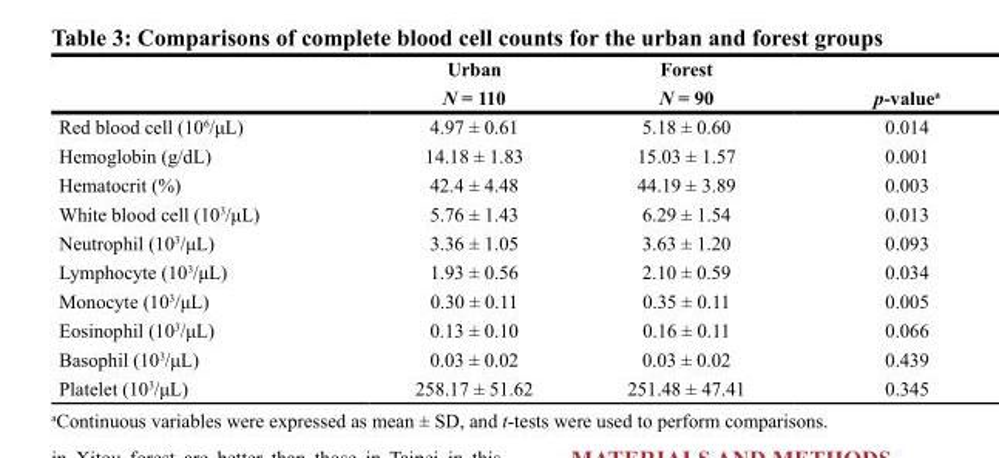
<table><thead><tr><td rowspan="2"></td><td rowspan="2">Urban N = 110</td><td rowspan="2">Forest N = 90</td><td rowspan="2">p-value<sup>a</sup></td></tr><tr></tr></thead><tbody><tr><td>Red blood cell (10<sup>6</sup>/μL)</td><td>4.97 ± 0.61</td><td>5.18 ± 0.60</td><td>0.014</td></tr><tr><td>Hemoglobin (g/dL)</td><td>14.18 ± 1.83</td><td>15.03 ± 1.57</td><td>0.001</td></tr><tr><td>Hematocrit (%)</td><td>42.4 ± 4.48</td><td>44.19 ± 3.89</td><td>0.003</td></tr><tr><td>White blood cell (10<sup>3</sup>/μL)</td><td>5.76 ± 1.43</td><td>6.29 ± 1.54</td><td>0.013</td></tr><tr><td>Neutrophil (10<sup>3</sup>/μL)</td><td>3.36 ± 1.05</td><td>3.63 ± 1.20</td><td>0.093</td></tr><tr><td>Lymphocyte (10<sup>3</sup>/μL)</td><td>1.93 ± 0.56</td><td>2.10 ± 0.59</td><td>0.034</td></tr><tr><td>Monocyte (10<sup>3</sup>/μL)</td><td>0.30 ± 0.11</td><td>0.35 ± 0.11</td><td>0.005</td></tr><tr><td>Eosinophil (10<sup>3</sup>/μL)</td><td>0.13 ± 0.10</td><td>0.16 ± 0.11</td><td>0.066</td></tr><tr><td>Basophil (10<sup>3</sup>/μL)</td><td>0.03 ± 0.02</td><td>0.03 ± 0.02</td><td>0.439</td></tr><tr><td>Platelet (10<sup>3</sup>/μL)</td><td>258.17 ± 51.62</td><td>251.48 ± 47.41</td><td>0.345</td></tr></tbody></table>